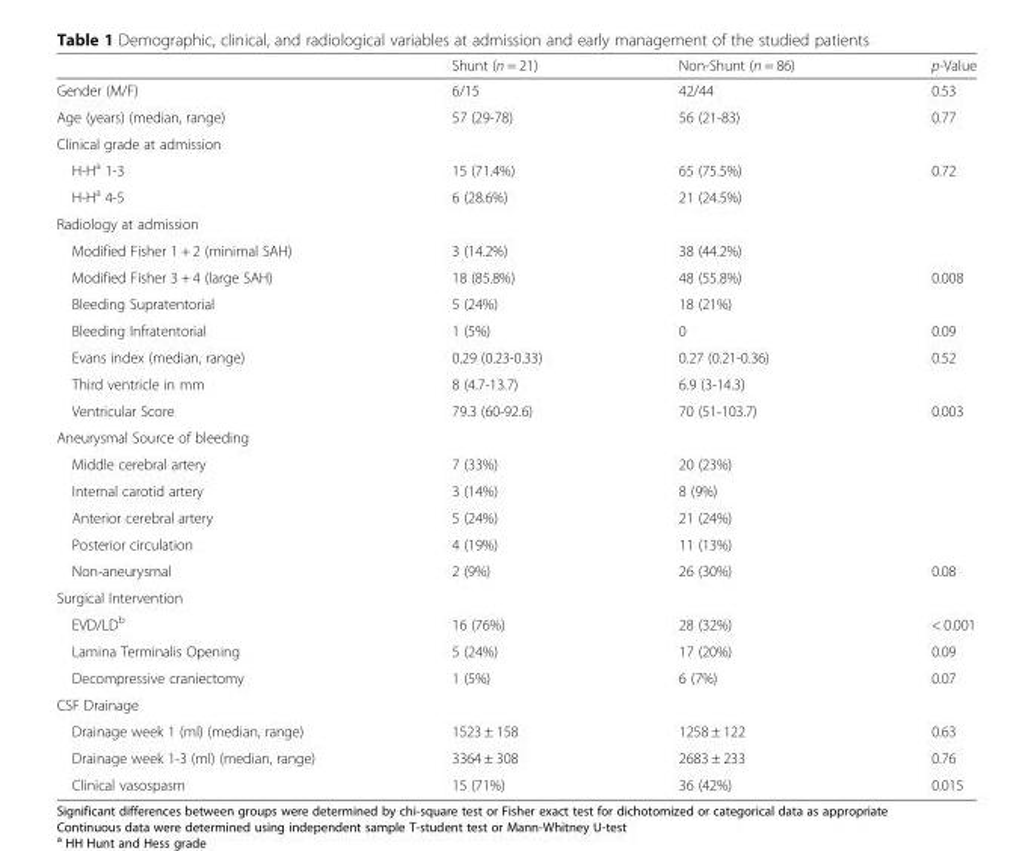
<table><thead><tr><td></td><td>Shunt (n = 21)</td><td>Non-Shunt (n = 86)</td><td>p-Value</td></tr></thead><tbody><tr><td>Gender (M/F)</td><td>6/15</td><td>42/44</td><td>0.53</td></tr><tr><td>Age (years) (median, range)</td><td>57 (29-78)</td><td>56 (21-83)</td><td>0.77</td></tr><tr><td colspan="4">Clinical grade at admission</td></tr><tr><td>H-H<sup>a</sup> 1-3</td><td>15 (71.4%)</td><td>65 (75.5%)</td><td>0.72</td></tr><tr><td>H-H<sup>a</sup> 4-5</td><td>6 (28.6%)</td><td>21 (24.5%)</td><td></td></tr><tr><td colspan="4">Radiology at admission</td></tr><tr><td>Modified Fisher 1 + 2 (minimal SAH)</td><td>3 (14.2%)</td><td>38 (44.2%)</td><td></td></tr><tr><td>Modified Fisher 3 + 4 (large SAH)</td><td>18 (85.8%)</td><td>48 (55.8%)</td><td>0.008</td></tr><tr><td>Bleeding Supratentorial</td><td>5 (24%)</td><td>18 (21%)</td><td></td></tr><tr><td>Bleeding Infratentorial</td><td>1 (5%)</td><td>0</td><td>0.09</td></tr><tr><td>Evans index (median, range)</td><td>0.29 (0.23-0.33)</td><td>0.27 (0.21-0.36)</td><td>0.52</td></tr><tr><td>Third ventricle in mm</td><td>8 (4.7-13.7)</td><td>6.9 (3-14.3)</td><td></td></tr><tr><td>Ventricular Score</td><td>79.3 (60-92.6)</td><td>70 (51-103.7)</td><td>0.003</td></tr><tr><td colspan="4">Aneurysmal Source of bleeding</td></tr><tr><td>Middle cerebral artery</td><td>7 (33%)</td><td>20 (23%)</td><td></td></tr><tr><td>Internal carotid artery</td><td>3 (14%)</td><td>8 (9%)</td><td></td></tr><tr><td>Anterior cerebral artery</td><td>5 (24%)</td><td>21 (24%)</td><td></td></tr><tr><td>Posterior circulation</td><td>4 (19%)</td><td>11 (13%)</td><td></td></tr><tr><td>Non-aneurysmal</td><td>2 (9%)</td><td>26 (30%)</td><td>0.08</td></tr><tr><td colspan="4">Surgical Intervention</td></tr><tr><td>EVD/LD<sup>b</sup></td><td>16 (76%)</td><td>28 (32%)</td><td>&lt; 0.001</td></tr><tr><td>Lamina Terminalis Opening</td><td>5 (24%)</td><td>17 (20%)</td><td>0.09</td></tr><tr><td>Decompressive craniectomy</td><td>1 (5%)</td><td>6 (7%)</td><td>0.07</td></tr><tr><td colspan="4">CSF Drainage</td></tr><tr><td>Drainage week 1 (ml) (median, range)</td><td>1523 ± 158</td><td>1258 ± 122</td><td>0.63</td></tr><tr><td>Drainage week 1-3 (ml) (median, range)</td><td>3364 ± 308</td><td>2683 ± 233</td><td>0.76</td></tr><tr><td>Clinical vasospasm</td><td>15 (71%)</td><td>36 (42%)</td><td>0.015</td></tr></tbody></table>